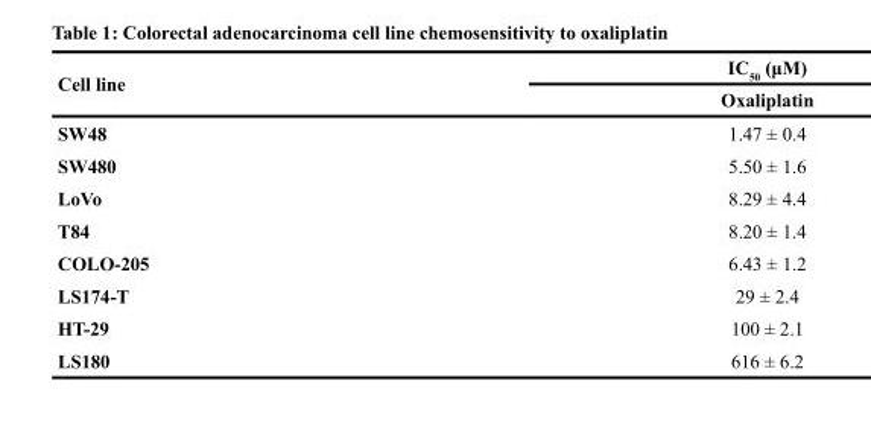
<table><thead><tr><td rowspan="2">Cell line</td><td rowspan="2">IC<sub>50</sub> (μM) Oxaliplatin</td></tr><tr></tr></thead><tbody><tr><td>SW48</td><td>1.47 ± 0.4</td></tr><tr><td>SW480</td><td>5.50 ± 1.6</td></tr><tr><td>LoVo</td><td>8.29 ± 4.4</td></tr><tr><td>T84</td><td>8.20 ± 1.4</td></tr><tr><td>COLO-205</td><td>6.43 ± 1.2</td></tr><tr><td>LS174-T</td><td>29 ± 2.4</td></tr><tr><td>HT-29</td><td>100 ± 2.1</td></tr><tr><td>LS180</td><td>616 ± 6.2</td></tr></tbody></table>